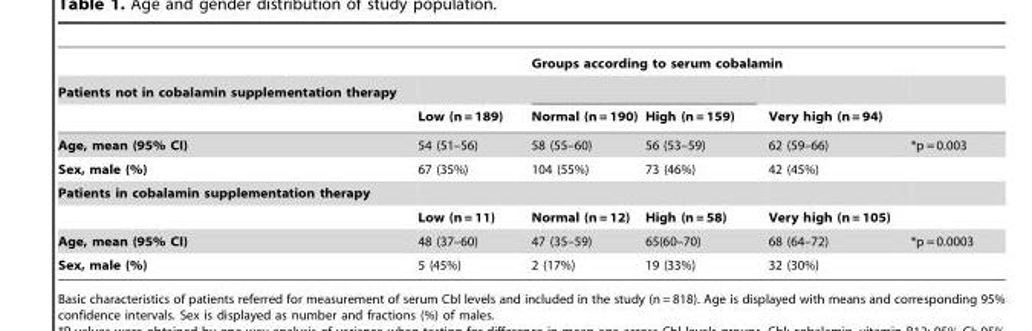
<table><thead><tr><td rowspan="3">Patients not in cobalamin supplementation therapy</td><td rowspan="3">Low (n = 189)</td><td colspan="3">Groups according to serum cobalamin</td><td rowspan="3"></td></tr><tr><td rowspan="2">Normal (n = 190)</td><td rowspan="2">High (n = 159)</td><td rowspan="2">Very high (n = 94)</td></tr><tr></tr></thead><tbody><tr><td>Age, mean (95% CI)</td><td>54 (51–56)</td><td>58 (55–60)</td><td>56 (53–59)</td><td>62 (59–66)</td><td>*p = 0.003</td></tr><tr><td>Sex, male (%)</td><td>67 (35%)</td><td>104 (55%)</td><td>73 (46%)</td><td>42 (45%)</td><td></td></tr><tr><td colspan="6">Patients in cobalamin supplementation therapy</td></tr><tr><td></td><td>Low (n = 11)</td><td>Normal (n = 12)</td><td>High (n = 58)</td><td>Very high (n = 105)</td><td></td></tr><tr><td>Age, mean (95% CI)</td><td>48 (37–60)</td><td>47 (35–59)</td><td>65(60–70)</td><td>68 (64–72)</td><td>*p = 0.0003</td></tr><tr><td>Sex, male (%)</td><td>5 (45%)</td><td>2 (17%)</td><td>19 (33%)</td><td>32 (30%)</td><td></td></tr></tbody></table>